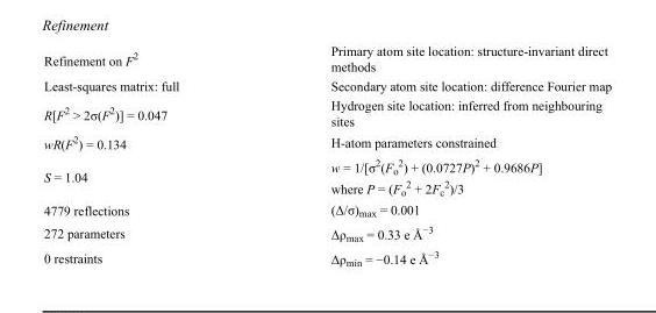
<table><tbody><tr><td>Refinement on F<sup>2</sup></td><td>Primary atom site location: structure-invariant direct methods</td></tr><tr><td>Least-squares matrix: full</td><td>Secondary atom site location: difference Fourier map</td></tr><tr><td>R[F<sup>2</sup> &gt; 2σ(F<sup>2</sup>)] = 0.047</td><td>Hydrogen site location: inferred from neighbouring sites</td></tr><tr><td>wR(F<sup>2</sup>) = 0.134</td><td>H-atom parameters constrained</td></tr><tr><td>S = 1.04</td><td>w = 1/[σ<sup>2</sup>(F<sub>o</sub> <sup>2</sup>) + (0.0727P)<sup>2</sup> + 0.9686P] where P = (F<sub>o</sub> <sup>2</sup> + 2F<sub>c</sub> <sup>2</sup>)/3</td></tr><tr><td>4779 reflections</td><td>(Δ/σ)<sub>max</sub> = 0.001</td></tr><tr><td>272 parameters</td><td>Δρ<sub>max</sub> = 0.33 e Å<sup>−3</sup></td></tr><tr><td>0 restraints</td><td>Δρ<sub>min</sub> = −0.14 e Å<sup>−3</sup></td></tr></tbody></table>